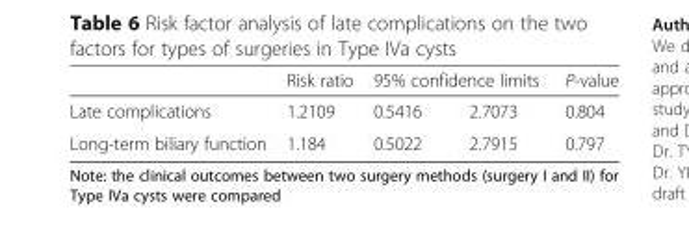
<table><thead><tr><td rowspan="2">Late complications</td><td rowspan="2">Risk ratio 1.2109</td><td colspan="2">95% confidence limits</td><td rowspan="2">P-value 0.804</td></tr><tr><td>0.5416</td><td>2.7073</td></tr></thead><tbody><tr><td>Long-term biliary function</td><td>1.184</td><td>0.5022</td><td>2.7915</td><td>0.797</td></tr></tbody></table>